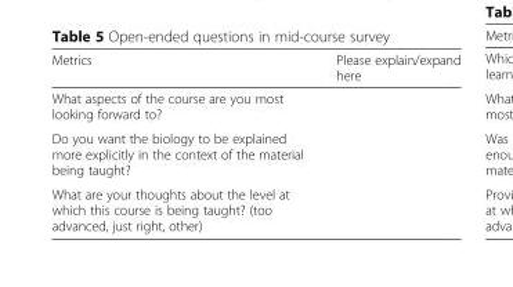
<table><thead><tr><td>Metrics</td><td>Please explain/expand here</td></tr></thead><tbody><tr><td colspan="2">What aspects of the course are you most looking forward to?</td></tr><tr><td colspan="2">Do you want the biology to be explained more explicitly in the context of the material being taught?</td></tr><tr><td>What are your thoughts about the level at which this course is being taught? (too advanced, just right, other)</td><td></td></tr></tbody></table>